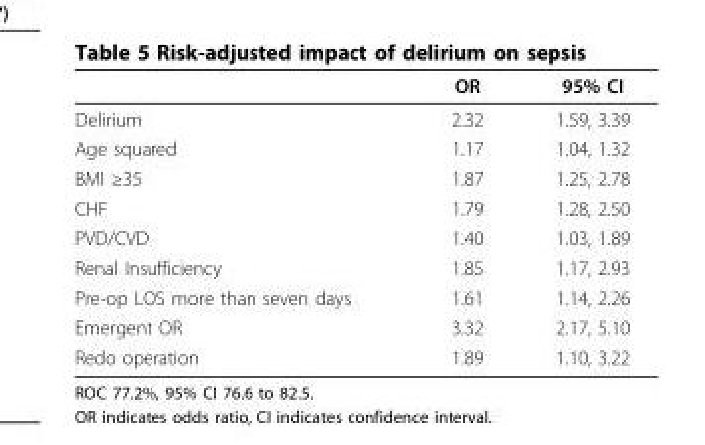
<table><thead><tr><td></td><td>OR</td><td>95% CI</td></tr></thead><tbody><tr><td>Delirium</td><td>2.32</td><td>1.59, 3.39</td></tr><tr><td>Age squared</td><td>1.17</td><td>1.04, 1.32</td></tr><tr><td>BMI ≥35</td><td>1.87</td><td>1.25, 2.78</td></tr><tr><td>CHF</td><td>1.79</td><td>1.28, 2.50</td></tr><tr><td>PVD/CVD</td><td>1.40</td><td>1.03, 1.89</td></tr><tr><td>Renal Insufficiency</td><td>1.85</td><td>1.17, 2.93</td></tr><tr><td>Pre-op LOS more than seven days</td><td>1.61</td><td>1.14, 2.26</td></tr><tr><td>Emergent OR</td><td>3.32</td><td>2.17, 5.10</td></tr><tr><td>Redo operation</td><td>1.89</td><td>1.10, 3.22</td></tr></tbody></table>